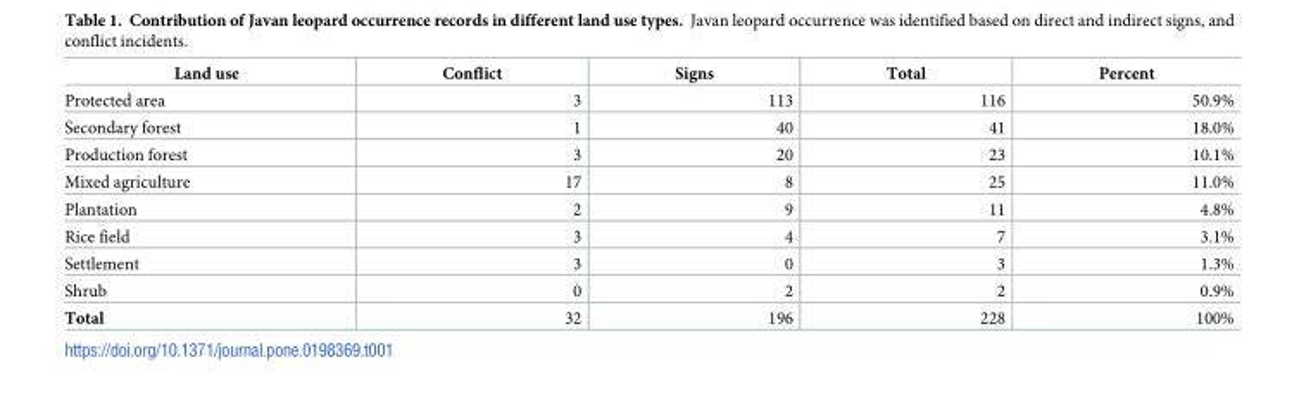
<table><thead><tr><td>Land use</td><td>Conflict</td><td>Signs</td><td>Total</td><td>Percent</td></tr></thead><tbody><tr><td>Protected area</td><td>3</td><td>113</td><td>116</td><td>50.9%</td></tr><tr><td>Secondary forest</td><td>1</td><td>40</td><td>41</td><td>18.0%</td></tr><tr><td>Production forest</td><td>3</td><td>20</td><td>23</td><td>10.1%</td></tr><tr><td>Mixed agriculture</td><td>17</td><td>8</td><td>25</td><td>11.0%</td></tr><tr><td>Plantation</td><td>2</td><td>9</td><td>11</td><td>4.8%</td></tr><tr><td>Rice field</td><td>3</td><td>4</td><td>7</td><td>3.1%</td></tr><tr><td>Settlement</td><td>3</td><td>0</td><td>3</td><td>1.3%</td></tr><tr><td>Shrub</td><td>0</td><td>2</td><td>2</td><td>0.9%</td></tr><tr><td>Total</td><td>32</td><td>196</td><td>228</td><td>100%</td></tr></tbody></table>